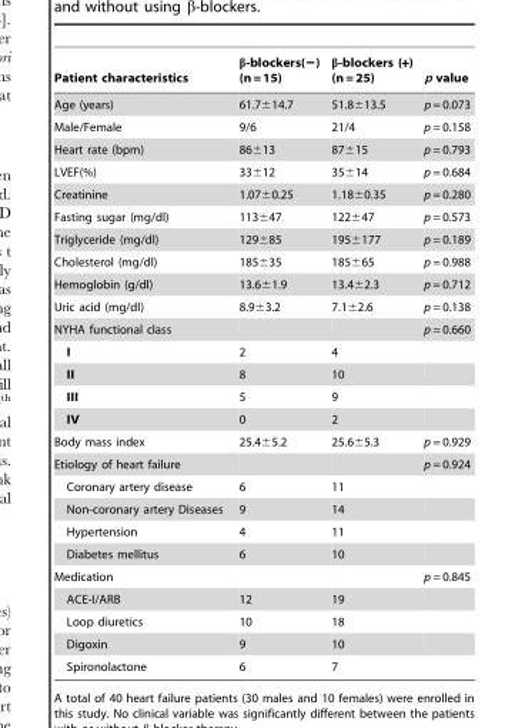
<table><thead><tr><td>Patient characteristics</td><td>β-blockers(−) (n = 15)</td><td>β-blockers (+) (n = 25)</td><td>p value</td></tr></thead><tbody><tr><td>Age (years)</td><td>61.7±14.7</td><td>51.8±13.5</td><td>p = 0.073</td></tr><tr><td>Male/Female</td><td>9/6</td><td>21/4</td><td>p = 0.158</td></tr><tr><td>Heart rate (bpm)</td><td>86±13</td><td>87±15</td><td>p = 0.793</td></tr><tr><td>LVEF(%)</td><td>33±12</td><td>35±14</td><td>p = 0.684</td></tr><tr><td>Creatinine</td><td>1.07±0.25</td><td>1.18±0.35</td><td>p = 0.280</td></tr><tr><td>Fasting sugar (mg/dl)</td><td>113±47</td><td>122±47</td><td>p = 0.573</td></tr><tr><td>Triglyceride (mg/dl)</td><td>129±85</td><td>195±177</td><td>p = 0.189</td></tr><tr><td>Cholesterol (mg/dl)</td><td>185±35</td><td>185±65</td><td>p = 0.988</td></tr><tr><td>Hemoglobin (g/dl)</td><td>13.6±1.9</td><td>13.4±2.3</td><td>p = 0.712</td></tr><tr><td>Uric acid (mg/dl)</td><td>8.9±3.2</td><td>7.1±2.6</td><td>p = 0.138</td></tr><tr><td>NYHA functional class</td><td></td><td></td><td>p = 0.660</td></tr><tr><td>I</td><td>2</td><td>4</td><td></td></tr><tr><td>II</td><td>8</td><td>10</td><td></td></tr><tr><td>III</td><td>5</td><td>9</td><td></td></tr><tr><td>IV</td><td>0</td><td>2</td><td></td></tr><tr><td>Body mass index</td><td>25.4±5.2</td><td>25.6±5.3</td><td>p = 0.929</td></tr><tr><td>Etiology of heart failure</td><td></td><td></td><td>p = 0.924</td></tr><tr><td>Coronary artery disease</td><td>6</td><td>11</td><td></td></tr><tr><td>Non-coronary artery Diseases</td><td>9</td><td>14</td><td></td></tr><tr><td>Hypertension</td><td>4</td><td>11</td><td></td></tr><tr><td>Diabetes mellitus</td><td>6</td><td>10</td><td></td></tr><tr><td>Medication</td><td></td><td></td><td>p = 0.845</td></tr><tr><td>ACE-I/ARB</td><td>12</td><td>19</td><td></td></tr><tr><td>Loop diuretics</td><td>10</td><td>18</td><td></td></tr><tr><td>Digoxin</td><td>9</td><td>10</td><td></td></tr><tr><td>Spironolactone</td><td>6</td><td>7</td><td></td></tr></tbody></table>